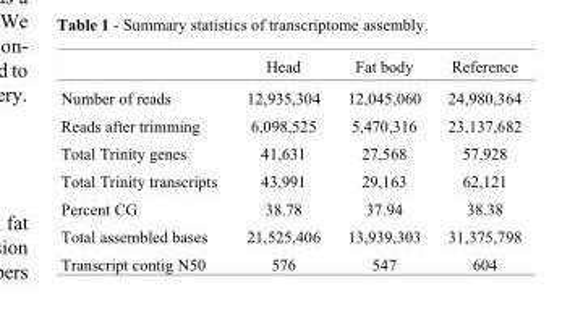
<table><thead><tr><td></td><td>Head</td><td>Fat body</td><td>Reference</td></tr></thead><tbody><tr><td>Number of reads</td><td>12,935,304</td><td>12,045,060</td><td>24,980,364</td></tr><tr><td>Reads after trimming</td><td>6,098,525</td><td>5,470,316</td><td>23,137,682</td></tr><tr><td>Total Trinity genes</td><td>41,631</td><td>27,568</td><td>57,928</td></tr><tr><td>Total Trinity transcripts</td><td>43,991</td><td>29,163</td><td>62,121</td></tr><tr><td>Percent CG</td><td>38.78</td><td>37.94</td><td>38.38</td></tr><tr><td>Total assembled bases</td><td>21,525,406</td><td>13,939,303</td><td>31,375,798</td></tr><tr><td>Transcript contig N50</td><td>576</td><td>547</td><td>604</td></tr></tbody></table>